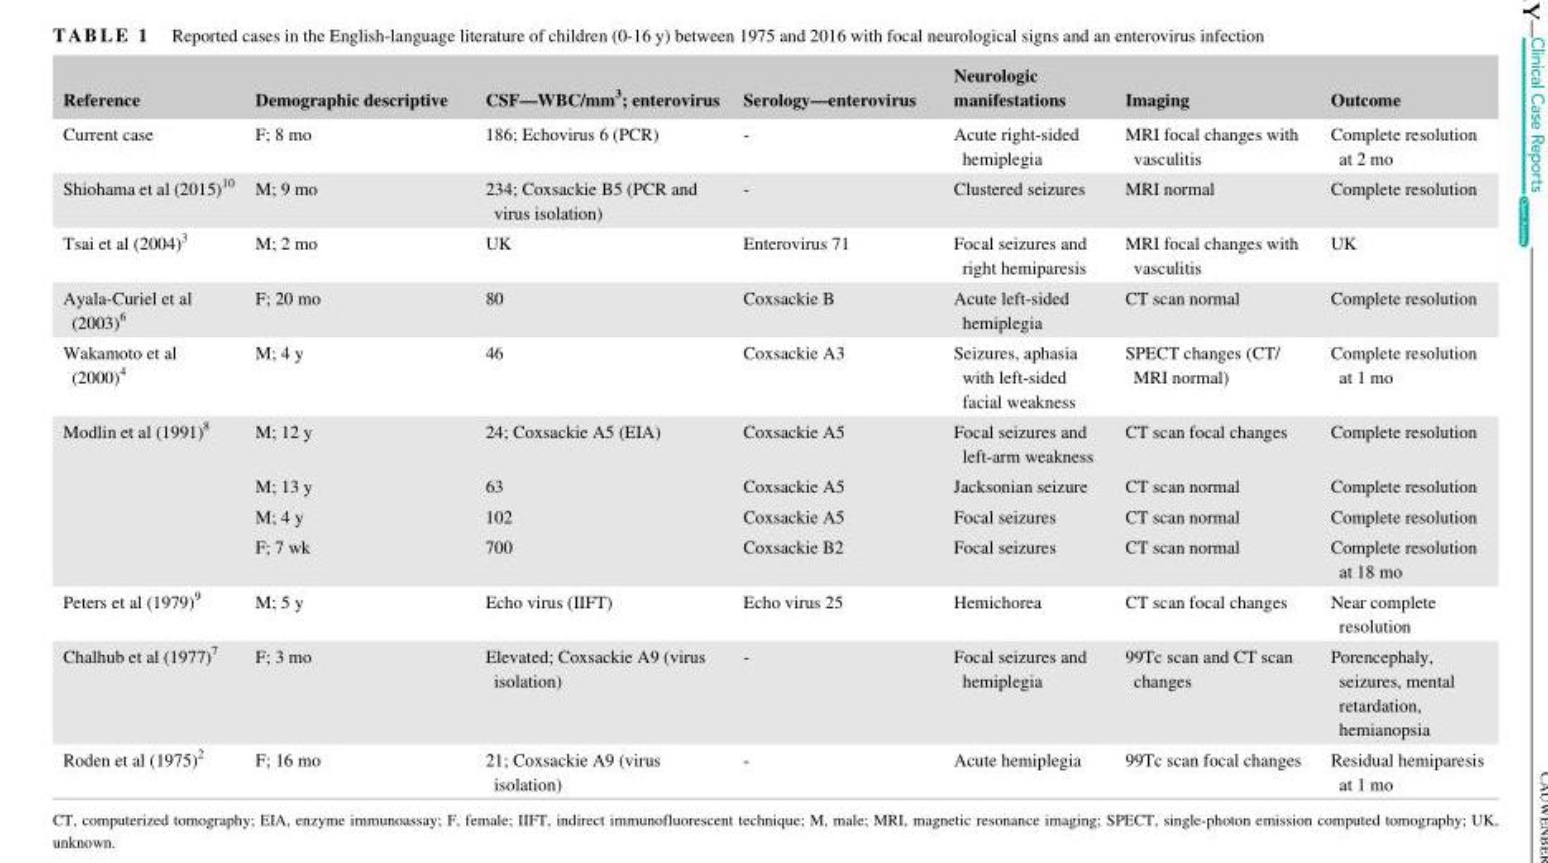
<table><thead><tr><td>Reference</td><td>Demographic descriptive</td><td>CSF—WBC/mm<sup>3</sup>; enterovirus</td><td>Serology—enterovirus</td><td>Neurologic manifestations</td><td>Imaging</td><td>Outcome</td></tr></thead><tbody><tr><td>Current case</td><td>F; 8 mo</td><td>186; Echovirus 6 (PCR)</td><td>‐</td><td>Acute right‐sided hemiplegia</td><td>MRI focal changes with vasculitis</td><td>Complete resolution at 2 mo</td></tr><tr><td>Shiohama et al (2015)<sup>10</sup></td><td>M; 9 mo</td><td>234; Coxsackie B5 (PCR and virus isolation)</td><td>‐</td><td>Clustered seizures</td><td>MRI normal</td><td>Complete resolution</td></tr><tr><td>Tsai et al (2004)<sup>3</sup></td><td>M; 2 mo</td><td>UK</td><td>Enterovirus 71</td><td>Focal seizures and right hemiparesis</td><td>MRI focal changes with vasculitis</td><td>UK</td></tr><tr><td>Ayala‐Curiel et al (2003)<sup>6</sup></td><td>F; 20 mo</td><td>80</td><td>Coxsackie B</td><td>Acute left‐sided hemiplegia</td><td>CT scan normal</td><td>Complete resolution</td></tr><tr><td>Wakamoto et al (2000)<sup>4</sup></td><td>M; 4 y</td><td>46</td><td>Coxsackie A3</td><td>Seizures, aphasia with left‐sided facial weakness</td><td>SPECT changes (CT/ MRI normal)</td><td>Complete resolution at 1 mo</td></tr><tr><td rowspan="4">Modlin et al (1991)<sup>8</sup></td><td>M; 12 y</td><td>24; Coxsackie A5 (EIA)</td><td>Coxsackie A5</td><td>Focal seizures and left‐arm weakness</td><td>CT scan focal changes</td><td>Complete resolution</td></tr><tr><td>M; 13 y</td><td>63</td><td>Coxsackie A5</td><td>Jacksonian seizure</td><td>CT scan normal</td><td>Complete resolution</td></tr><tr><td>M; 4 y</td><td>102</td><td>Coxsackie A5</td><td>Focal seizures</td><td>CT scan normal</td><td>Complete resolution</td></tr><tr><td>F; 7 wk</td><td>700</td><td>Coxsackie B2</td><td>Focal seizures</td><td>CT scan normal</td><td>Complete resolution at 18 mo</td></tr><tr><td>Peters et al (1979)<sup>9</sup></td><td>M; 5 y</td><td>Echo virus (IIFT)</td><td>Echo virus 25</td><td>Hemichorea</td><td>CT scan focal changes</td><td>Near complete resolution</td></tr><tr><td>Chalhub et al (1977)<sup>7</sup></td><td>F; 3 mo</td><td>Elevated; Coxsackie A9 (virus isolation)</td><td>‐</td><td>Focal seizures and hemiplegia</td><td>99Tc scan and CT scan changes</td><td>Porencephaly, seizures, mental retardation, hemianopsia</td></tr><tr><td>Roden et al (1975)<sup>2</sup></td><td>F; 16 mo</td><td>21; Coxsackie A9 (virus isolation)</td><td>‐</td><td>Acute hemiplegia</td><td>99Tc scan focal changes</td><td>Residual hemiparesis at 1 mo</td></tr></tbody></table>